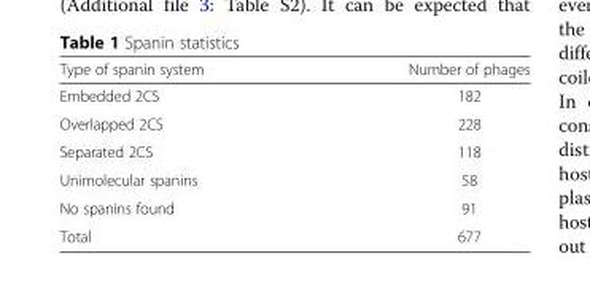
<table><thead><tr><td>Type of spanin system</td><td>Number of phages</td></tr></thead><tbody><tr><td>Embedded 2CS</td><td>182</td></tr><tr><td>Overlapped 2CS</td><td>228</td></tr><tr><td>Separated 2CS</td><td>118</td></tr><tr><td>Unimolecular spanins</td><td>58</td></tr><tr><td>No spanins found</td><td>91</td></tr><tr><td>Total</td><td>677</td></tr></tbody></table>